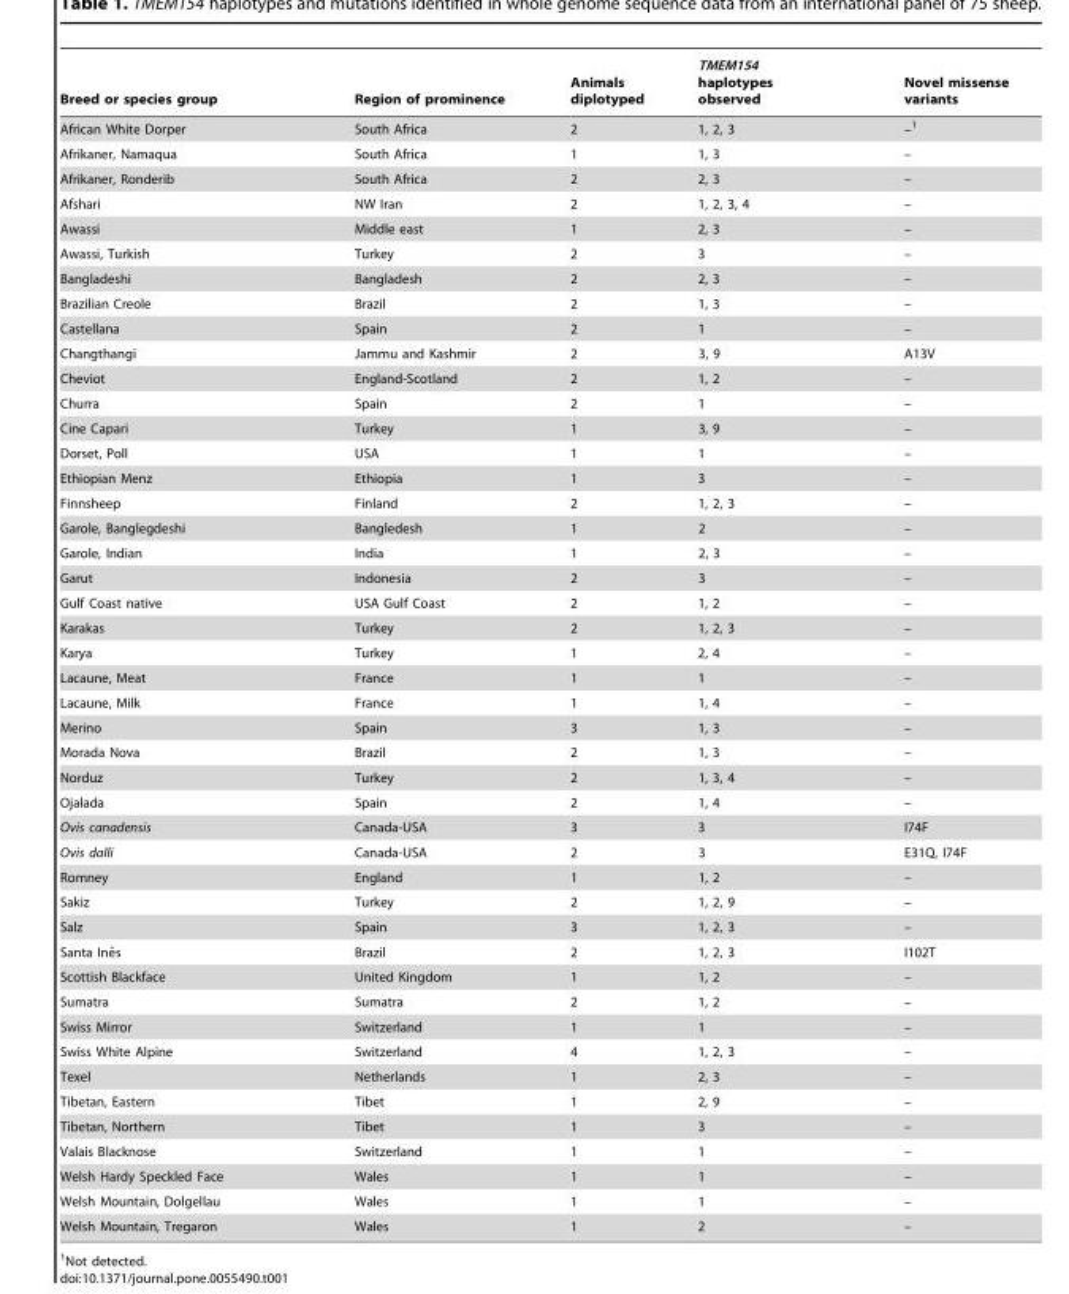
<table><thead><tr><td>Breed or species group</td><td>Region of prominence</td><td>Animals diplotyped</td><td>TMEM154 haplotypes observed</td><td>Novel missense variants</td></tr></thead><tbody><tr><td>African White Dorper</td><td>South Africa</td><td>2</td><td>1, 2, 3</td><td>–1</td></tr><tr><td>Afrikaner, Namaqua</td><td>South Africa</td><td>1</td><td>1, 3</td><td>–</td></tr><tr><td>Afrikaner, Ronderib</td><td>South Africa</td><td>2</td><td>2, 3</td><td>–</td></tr><tr><td>Afshari</td><td>NW Iran</td><td>2</td><td>1, 2, 3, 4</td><td>–</td></tr><tr><td>Awassi</td><td>Middle east</td><td>1</td><td>2, 3</td><td>–</td></tr><tr><td>Awassi, Turkish</td><td>Turkey</td><td>2</td><td>3</td><td>–</td></tr><tr><td>Bangladeshi</td><td>Bangladesh</td><td>2</td><td>2, 3</td><td>–</td></tr><tr><td>Brazilian Creole</td><td>Brazil</td><td>2</td><td>1, 3</td><td>–</td></tr><tr><td>Castellana</td><td>Spain</td><td>2</td><td>1</td><td>–</td></tr><tr><td>Changthangi</td><td>Jammu and Kashmir</td><td>2</td><td>3, 9</td><td>A13V</td></tr><tr><td>Cheviot</td><td>England-Scotland</td><td>2</td><td>1, 2</td><td>–</td></tr><tr><td>Churra</td><td>Spain</td><td>2</td><td>1</td><td>–</td></tr><tr><td>Cine Capari</td><td>Turkey</td><td>1</td><td>3, 9</td><td>–</td></tr><tr><td>Dorset, Poll</td><td>USA</td><td>1</td><td>1</td><td>–</td></tr><tr><td>Ethiopian Menz</td><td>Ethiopia</td><td>1</td><td>3</td><td>–</td></tr><tr><td>Finnsheep</td><td>Finland</td><td>2</td><td>1, 2, 3</td><td>–</td></tr><tr><td>Garole, Banglegdeshi</td><td>Bangledesh</td><td>1</td><td>2</td><td>–</td></tr><tr><td>Garole, Indian</td><td>India</td><td>1</td><td>2, 3</td><td>–</td></tr><tr><td>Garut</td><td>Indonesia</td><td>2</td><td>3</td><td>–</td></tr><tr><td>Gulf Coast native</td><td>USA Gulf Coast</td><td>2</td><td>1, 2</td><td>–</td></tr><tr><td>Karakas</td><td>Turkey</td><td>2</td><td>1, 2, 3</td><td>–</td></tr><tr><td>Karya</td><td>Turkey</td><td>1</td><td>2, 4</td><td>–</td></tr><tr><td>Lacaune, Meat</td><td>France</td><td>1</td><td>1</td><td>–</td></tr><tr><td>Lacaune, Milk</td><td>France</td><td>1</td><td>1, 4</td><td>–</td></tr><tr><td>Merino</td><td>Spain</td><td>3</td><td>1, 3</td><td>–</td></tr><tr><td>Morada Nova</td><td>Brazil</td><td>2</td><td>1, 3</td><td>–</td></tr><tr><td>Norduz</td><td>Turkey</td><td>2</td><td>1, 3, 4</td><td>–</td></tr><tr><td>Ojalada</td><td>Spain</td><td>2</td><td>1, 4</td><td>–</td></tr><tr><td>Ovis canadensis</td><td>Canada-USA</td><td>3</td><td>3</td><td>I74F</td></tr><tr><td>Ovis dalli</td><td>Canada-USA</td><td>2</td><td>3</td><td>E31Q, I74F</td></tr><tr><td>Romney</td><td>England</td><td>1</td><td>1, 2</td><td>–</td></tr><tr><td>Sakiz</td><td>Turkey</td><td>2</td><td>1, 2, 9</td><td>–</td></tr><tr><td>Salz</td><td>Spain</td><td>3</td><td>1, 2, 3</td><td>–</td></tr><tr><td>Santa Ineˆs</td><td>Brazil</td><td>2</td><td>1, 2, 3</td><td>I102T</td></tr><tr><td>Scottish Blackface</td><td>United Kingdom</td><td>1</td><td>1, 2</td><td>–</td></tr><tr><td>Sumatra</td><td>Sumatra</td><td>2</td><td>1, 2</td><td>–</td></tr><tr><td>Swiss Mirror</td><td>Switzerland</td><td>1</td><td>1</td><td>–</td></tr><tr><td>Swiss White Alpine</td><td>Switzerland</td><td>4</td><td>1, 2, 3</td><td>–</td></tr><tr><td>Texel</td><td>Netherlands</td><td>1</td><td>2, 3</td><td>–</td></tr><tr><td>Tibetan, Eastern</td><td>Tibet</td><td>1</td><td>2, 9</td><td>–</td></tr><tr><td>Tibetan, Northern</td><td>Tibet</td><td>1</td><td>3</td><td>–</td></tr><tr><td>Valais Blacknose</td><td>Switzerland</td><td>1</td><td>1</td><td>–</td></tr><tr><td>Welsh Hardy Speckled Face</td><td>Wales</td><td>1</td><td>1</td><td>–</td></tr><tr><td>Welsh Mountain, Dolgellau</td><td>Wales</td><td>1</td><td>1</td><td>–</td></tr><tr><td>Welsh Mountain, Tregaron</td><td>Wales</td><td>1</td><td>2</td><td>–</td></tr></tbody></table>